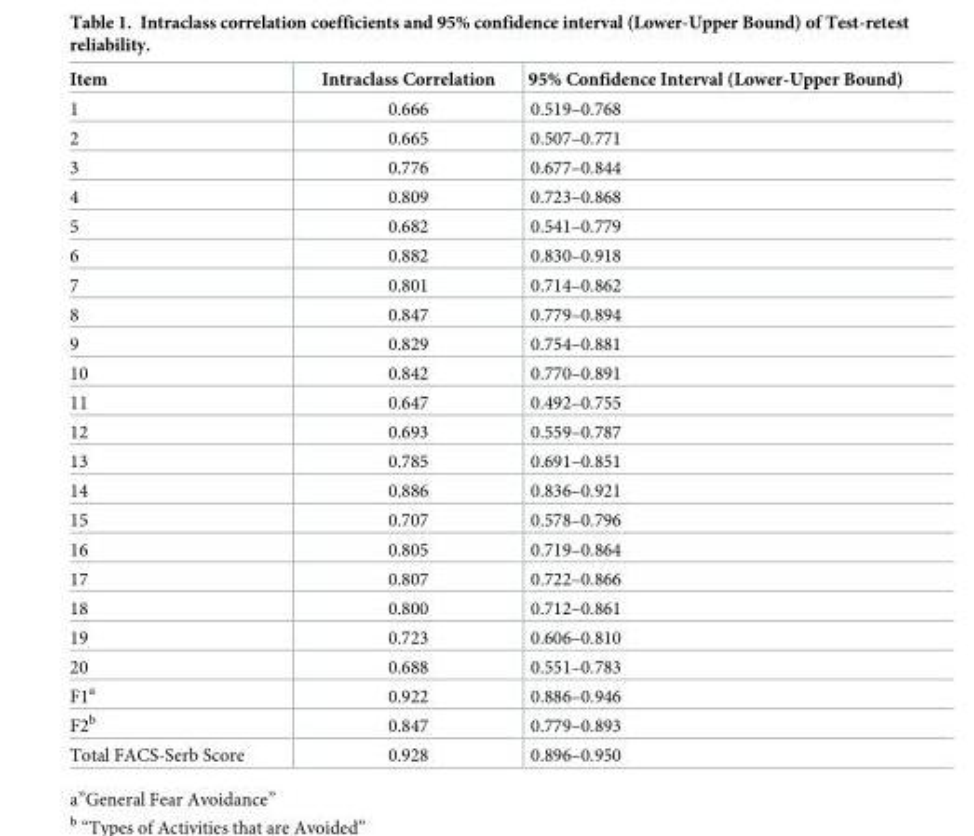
<table><thead><tr><td>Item</td><td>Intraclass Correlation</td><td>95% Confidence Interval (Lower-Upper Bound)</td></tr></thead><tbody><tr><td>1</td><td>0.666</td><td>0.519–0.768</td></tr><tr><td>2</td><td>0.665</td><td>0.507–0.771</td></tr><tr><td>3</td><td>0.776</td><td>0.677–0.844</td></tr><tr><td>4</td><td>0.809</td><td>0.723–0.868</td></tr><tr><td>5</td><td>0.682</td><td>0.541–0.779</td></tr><tr><td>6</td><td>0.882</td><td>0.830–0.918</td></tr><tr><td>7</td><td>0.801</td><td>0.714–0.862</td></tr><tr><td>8</td><td>0.847</td><td>0.779–0.894</td></tr><tr><td>9</td><td>0.829</td><td>0.754–0.881</td></tr><tr><td>10</td><td>0.842</td><td>0.770–0.891</td></tr><tr><td>11</td><td>0.647</td><td>0.492–0.755</td></tr><tr><td>12</td><td>0.693</td><td>0.559–0.787</td></tr><tr><td>13</td><td>0.785</td><td>0.691–0.851</td></tr><tr><td>14</td><td>0.886</td><td>0.836–0.921</td></tr><tr><td>15</td><td>0.707</td><td>0.578–0.796</td></tr><tr><td>16</td><td>0.805</td><td>0.719–0.864</td></tr><tr><td>17</td><td>0.807</td><td>0.722–0.866</td></tr><tr><td>18</td><td>0.800</td><td>0.712–0.861</td></tr><tr><td>19</td><td>0.723</td><td>0.606–0.810</td></tr><tr><td>20</td><td>0.688</td><td>0.551–0.783</td></tr><tr><td>F1<sup>a</sup></td><td>0.922</td><td>0.886–0.946</td></tr><tr><td>F2<sup>b</sup></td><td>0.847</td><td>0.779–0.893</td></tr><tr><td>Total FACS-Serb Score</td><td>0.928</td><td>0.896–0.950</td></tr></tbody></table>